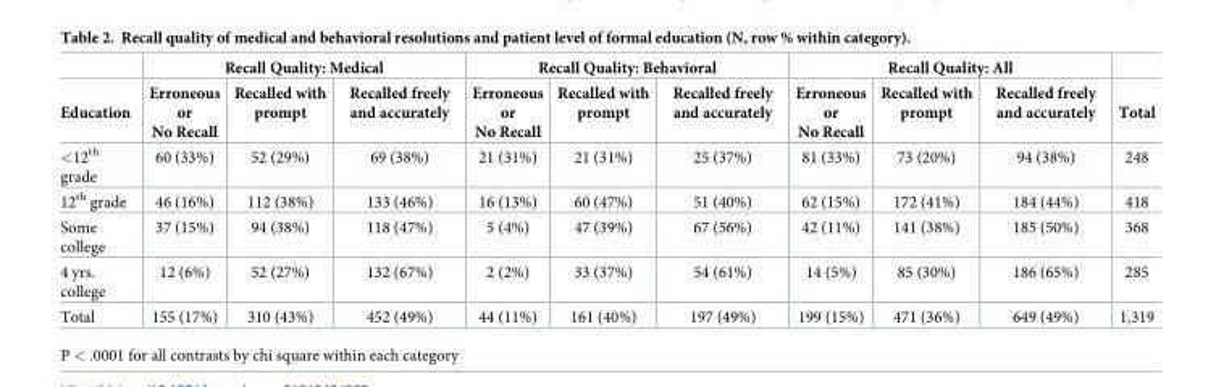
<table><thead><tr><td rowspan="2">Education</td><td colspan="3">Recall Quality: Medical</td><td colspan="3">Recall Quality: Behavioral</td><td colspan="3">Recall Quality: All</td><td rowspan="2">Total</td></tr><tr><td>Erroneous or No Recall</td><td>Recalled with prompt</td><td>Recalled freely and accurately</td><td>Erroneous or No Recall</td><td>Recalled with prompt</td><td>Recalled freely and accurately</td><td>Erroneous or No Recall</td><td>Recalled with prompt</td><td>Recalled freely and accurately</td></tr></thead><tbody><tr><td>&lt;12<sup>th</sup> grade</td><td>60 (33%)</td><td>52 (29%)</td><td>69 (38%)</td><td>21 (31%)</td><td>21 (31%)</td><td>25 (37%)</td><td>81 (33%)</td><td>73 (20%)</td><td>94 (38%)</td><td>248</td></tr><tr><td>12<sup>th</sup> grade</td><td>46 (16%)</td><td>112 (38%)</td><td>133 (46%)</td><td>16 (13%)</td><td>60 (47%)</td><td>51 (40%)</td><td>62 (15%)</td><td>172 (41%)</td><td>184 (44%)</td><td>418</td></tr><tr><td>Some college</td><td>37 (15%)</td><td>94 (38%)</td><td>118 (47%)</td><td>5 (4%)</td><td>47 (39%)</td><td>67 (56%)</td><td>42 (11%)</td><td>141 (38%)</td><td>185 (50%)</td><td>368</td></tr><tr><td>4 yrs. college</td><td>12 (6%)</td><td>52 (27%)</td><td>132 (67%)</td><td>2 (2%)</td><td>33 (37%)</td><td>54 (61%)</td><td>14 (5%)</td><td>85 (30%)</td><td>186 (65%)</td><td>285</td></tr><tr><td>Total</td><td>155 (17%)</td><td>310 (43%)</td><td>452 (49%)</td><td>44 (11%)</td><td>161 (40%)</td><td>197 (49%)</td><td>199 (15%)</td><td>471 (36%)</td><td>649 (49%)</td><td>1,319</td></tr></tbody></table>